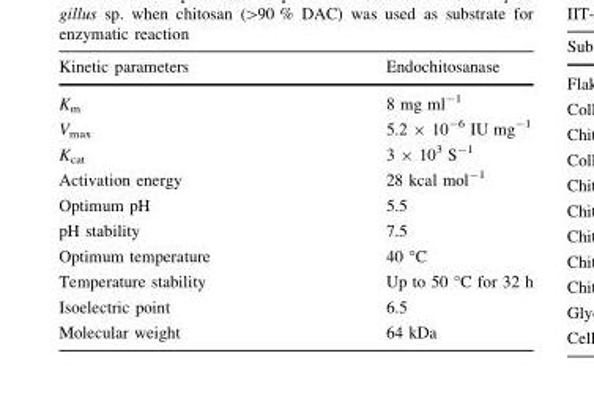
<table><thead><tr><td>Kinetic parameters</td><td>Endochitosanase</td></tr></thead><tbody><tr><td>K<sub>m</sub></td><td>8 mg ml<sup>-1</sup></td></tr><tr><td>V<sub>max</sub></td><td>5.2 × 10<sup>-6</sup> IU mg<sup>-1</sup></td></tr><tr><td>K<sub>cat</sub></td><td>3 × 10<sup>3</sup> S<sup>-1</sup></td></tr><tr><td>Activation energy</td><td>28 kcal mol<sup>-1</sup></td></tr><tr><td>Optimum pH</td><td>5.5</td></tr><tr><td>pH stability</td><td>7.5</td></tr><tr><td>Optimum temperature</td><td>40 °C</td></tr><tr><td>Temperature stability</td><td>Up to 50 °C for 32 h</td></tr><tr><td>Isoelectric point</td><td>6.5</td></tr><tr><td>Molecular weight</td><td>64 kDa</td></tr></tbody></table>